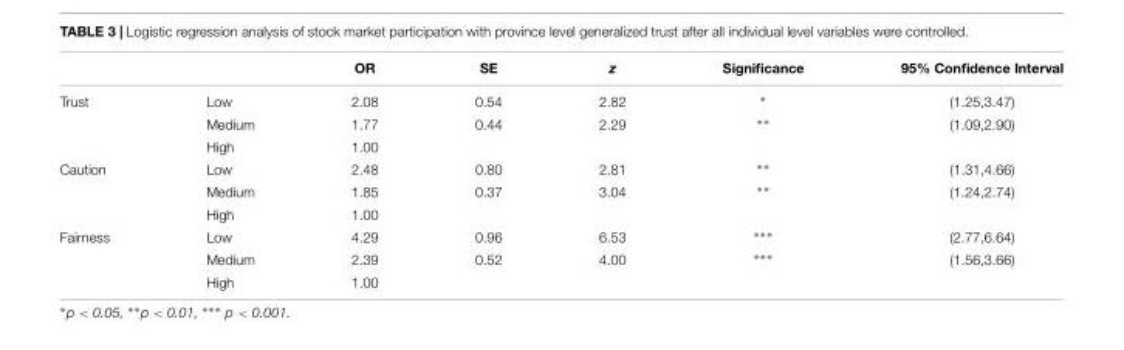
<table><thead><tr><td></td><td></td><td>OR</td><td>SE</td><td>z</td><td>Significance</td><td>95% Confidence Interval</td></tr></thead><tbody><tr><td rowspan="3">Trust</td><td>Low</td><td>2.08</td><td>0.54</td><td>2.82</td><td>∗</td><td>(1.25,3.47)</td></tr><tr><td>Medium</td><td>1.77</td><td>0.44</td><td>2.29</td><td>∗∗</td><td>(1.09,2.90)</td></tr><tr><td>High</td><td>1.00</td><td></td><td></td><td></td><td></td></tr><tr><td rowspan="3">Caution</td><td>Low</td><td>2.48</td><td>0.80</td><td>2.81</td><td>∗∗</td><td>(1.31,4.66)</td></tr><tr><td>Medium</td><td>1.85</td><td>0.37</td><td>3.04</td><td>∗∗</td><td>(1.24,2.74)</td></tr><tr><td>High</td><td>1.00</td><td></td><td></td><td></td><td></td></tr><tr><td rowspan="3">Fairness</td><td>Low</td><td>4.29</td><td>0.96</td><td>6.53</td><td>∗∗∗</td><td>(2.77,6.64)</td></tr><tr><td>Medium</td><td>2.39</td><td>0.52</td><td>4.00</td><td>∗∗∗</td><td>(1.56,3.66)</td></tr><tr><td>High</td><td>1.00</td><td></td><td></td><td></td><td></td></tr></tbody></table>